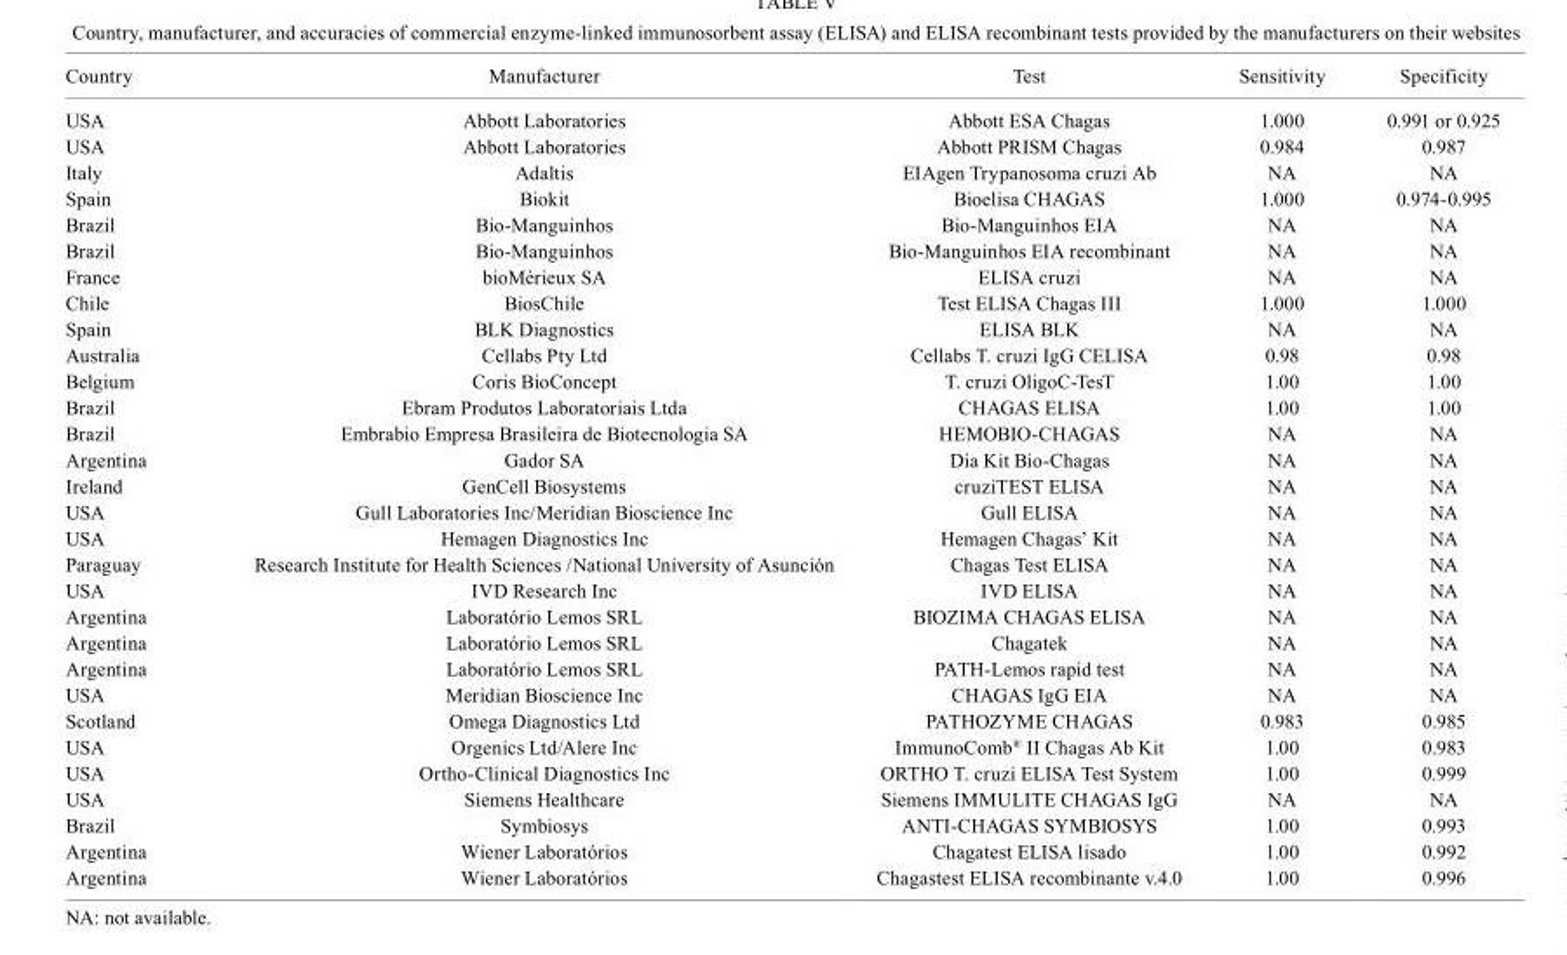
<table><thead><tr><td>Country</td><td>Manufacturer</td><td>Test</td><td>Sensitivity</td><td>Specificity</td></tr></thead><tbody><tr><td>USA</td><td>Abbott Laboratories</td><td>Abbott ESA Chagas</td><td>1.000</td><td>0.991 or 0.925</td></tr><tr><td>USA</td><td>Abbott Laboratories</td><td>Abbott PRISM Chagas</td><td>0.984</td><td>0.987</td></tr><tr><td>Italy</td><td>Adaltis</td><td>EIAgen Trypanosoma cruzi Ab</td><td>NA</td><td>NA</td></tr><tr><td>Spain</td><td>Biokit</td><td>Bioelisa CHAGAS</td><td>1.000</td><td>0.974-0.995</td></tr><tr><td>Brazil</td><td>Bio-Manguinhos</td><td>Bio-Manguinhos EIA</td><td>NA</td><td>NA</td></tr><tr><td>Brazil</td><td>Bio-Manguinhos</td><td>Bio-Manguinhos EIA recombinant</td><td>NA</td><td>NA</td></tr><tr><td>France</td><td>bioMérieux SA</td><td>ELISA cruzi</td><td>NA</td><td>NA</td></tr><tr><td>Chile</td><td>BiosChile</td><td>Test ELISA Chagas III</td><td>1.000</td><td>1.000</td></tr><tr><td>Spain</td><td>BLK Diagnostics</td><td>ELISA BLK</td><td>NA</td><td>NA</td></tr><tr><td>Australia</td><td>Cellabs Pty Ltd</td><td>Cellabs T. cruzi IgG CELISA</td><td>0.98</td><td>0.98</td></tr><tr><td>Belgium</td><td>Coris BioConcept</td><td>T. cruzi OligoC-TesT</td><td>1.00</td><td>1.00</td></tr><tr><td>Brazil</td><td>Ebram Produtos Laboratoriais Ltda</td><td>CHAGAS ELISA</td><td>1.00</td><td>1.00</td></tr><tr><td>Brazil</td><td>Embrabio Empresa Brasileira de Biotecnologia SA</td><td>HEMOBIO-CHAGAS</td><td>NA</td><td>NA</td></tr><tr><td>Argentina</td><td>Gador SA</td><td>Dia Kit Bio-Chagas</td><td>NA</td><td>NA</td></tr><tr><td>Ireland</td><td>GenCell Biosystems</td><td>cruziTEST ELISA</td><td>NA</td><td>NA</td></tr><tr><td>USA</td><td>Gull Laboratories Inc/Meridian Bioscience Inc</td><td>Gull ELISA</td><td>NA</td><td>NA</td></tr><tr><td>USA</td><td>Hemagen Diagnostics Inc</td><td>Hemagen Chagas’ Kit</td><td>NA</td><td>NA</td></tr><tr><td>Paraguay</td><td>Research Institute for Health Sciences /National University of Asunción</td><td>Chagas Test ELISA</td><td>NA</td><td>NA</td></tr><tr><td>USA</td><td>IVD Research Inc</td><td>IVD ELISA</td><td>NA</td><td>NA</td></tr><tr><td>Argentina</td><td>Laboratório Lemos SRL</td><td>BIOZIMA CHAGAS ELISA</td><td>NA</td><td>NA</td></tr><tr><td>Argentina</td><td>Laboratório Lemos SRL</td><td>Chagatek</td><td>NA</td><td>NA</td></tr><tr><td>Argentina</td><td>Laboratório Lemos SRL</td><td>PATH-Lemos rapid test</td><td>NA</td><td>NA</td></tr><tr><td>USA</td><td>Meridian Bioscience Inc</td><td>CHAGAS IgG EIA</td><td>NA</td><td>NA</td></tr><tr><td>Scotland</td><td>Omega Diagnostics Ltd</td><td>PATHOZYME CHAGAS</td><td>0.983</td><td>0.985</td></tr><tr><td>USA</td><td>Orgenics Ltd/Alere Inc</td><td>ImmunoComb<sup>®</sup> II Chagas Ab Kit</td><td>1.00</td><td>0.983</td></tr><tr><td>USA</td><td>Ortho-Clinical Diagnostics Inc</td><td>ORTHO T. cruzi ELISA Test System</td><td>1.00</td><td>0.999</td></tr><tr><td>USA</td><td>Siemens Healthcare</td><td>Siemens IMMULITE CHAGAS IgG</td><td>NA</td><td>NA</td></tr><tr><td>Brazil</td><td>Symbiosys</td><td>ANTI-CHAGAS SYMBIOSYS</td><td>1.00</td><td>0.993</td></tr><tr><td>Argentina</td><td>Wiener Laboratórios</td><td>Chagatest ELISA lisado</td><td>1.00</td><td>0.992</td></tr><tr><td>Argentina</td><td>Wiener Laboratórios</td><td>Chagastest ELISA recombinante v.4.0</td><td>1.00</td><td>0.996</td></tr></tbody></table>